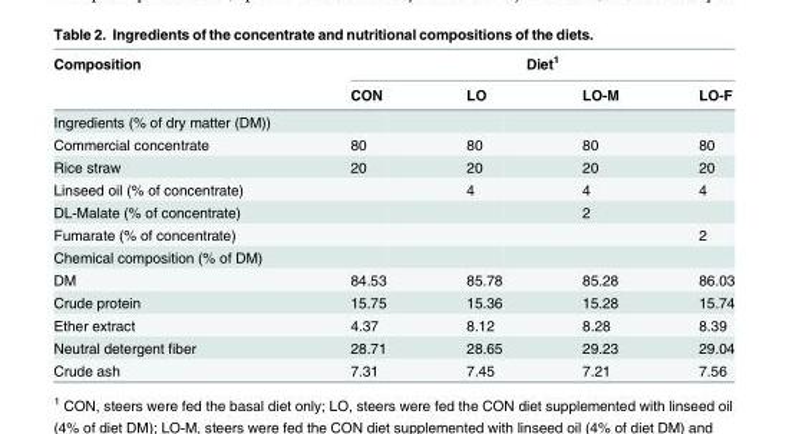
<table><thead><tr><td rowspan="2">Composition</td><td colspan="4">Diet<sup>1</sup></td></tr><tr><td>CON</td><td>LO</td><td>LO-M</td><td>LO-F</td></tr></thead><tbody><tr><td colspan="5">Ingredients (% of dry matter (DM))</td></tr><tr><td>Commercial concentrate</td><td>80</td><td>80</td><td>80</td><td>80</td></tr><tr><td>Rice straw</td><td>20</td><td>20</td><td>20</td><td>20</td></tr><tr><td>Linseed oil (% of concentrate)</td><td></td><td>4</td><td>4</td><td>4</td></tr><tr><td>DL-Malate (% of concentrate)</td><td></td><td></td><td>2</td><td></td></tr><tr><td>Fumarate (% of concentrate)</td><td></td><td></td><td></td><td>2</td></tr><tr><td colspan="5">Chemical composition (% of DM)</td></tr><tr><td>DM</td><td>84.53</td><td>85.78</td><td>85.28</td><td>86.03</td></tr><tr><td>Crude protein</td><td>15.75</td><td>15.36</td><td>15.28</td><td>15.74</td></tr><tr><td>Ether extract</td><td>4.37</td><td>8.12</td><td>8.28</td><td>8.39</td></tr><tr><td>Neutral detergent fiber</td><td>28.71</td><td>28.65</td><td>29.23</td><td>29.04</td></tr><tr><td>Crude ash</td><td>7.31</td><td>7.45</td><td>7.21</td><td>7.56</td></tr></tbody></table>